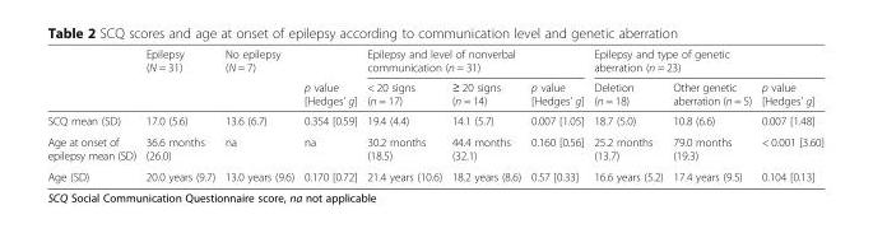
<table><thead><tr><td rowspan="2"></td><td rowspan="2">Epilepsy (N = 31)</td><td rowspan="2">No epilepsy (N = 7)</td><td rowspan="2">p value [Hedges’ g]</td><td colspan="3">Epilepsy and level of nonverbal communication (n = 31)</td><td colspan="3">Epilepsy and type of genetic aberration (n = 23)</td></tr><tr><td>&lt; 20 signs (n = 17)</td><td>≥ 20 signs (n = 14)</td><td>p value [Hedges’ g]</td><td>Deletion (n = 18)</td><td>Other genetic aberration (n = 5)</td><td>p value [Hedges’ g]</td></tr></thead><tbody><tr><td>SCQ mean (SD)</td><td>17.0 (5.6)</td><td>13.6 (6.7)</td><td>0.354 [0.59]</td><td>19.4 (4.4)</td><td>14.1 (5.7)</td><td>0.007 [1.05]</td><td>18.7 (5.0)</td><td>10.8 (6.6)</td><td>0.007 [1.48]</td></tr><tr><td>Age at onset of epilepsy mean (SD)</td><td>36.6 months (26.0)</td><td>na</td><td>na</td><td>30.2 months (18.5)</td><td>44.4 months (32.1)</td><td>0.160 [0.56]</td><td>25.2 months (13.7)</td><td>79.0 months (19.3)</td><td>&lt; 0.001 [3.60]</td></tr><tr><td>Age (SD)</td><td>20.0 years (9.7)</td><td>13.0 years (9.6)</td><td>0.170 [0.72]</td><td>21.4 years (10.6)</td><td>18.2 years (8.6)</td><td>0.57 [0.33]</td><td>16.6 years (5.2)</td><td>17.4 years (9.5)</td><td>0.104 [0.13]</td></tr></tbody></table>